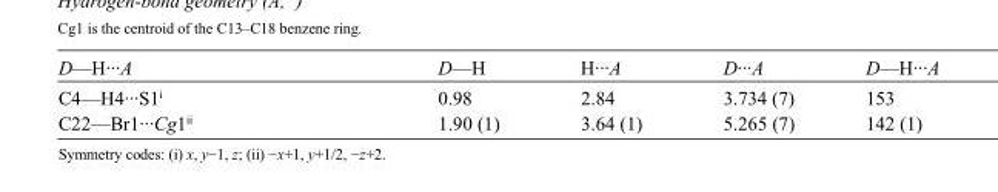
<table><tbody><tr><td>D—H···A</td><td>D—H</td><td>H···A</td><td>D···A</td><td>D—H···A</td></tr><tr><td>C4—H4···S1<sup>i</sup></td><td>0.98</td><td>2.84</td><td>3.734 (7)</td><td>153</td></tr><tr><td>C22—Br1···Cg1<sup>ii</sup></td><td>1.90 (1)</td><td>3.64 (1)</td><td>5.265 (7)</td><td>142 (1)</td></tr></tbody></table>